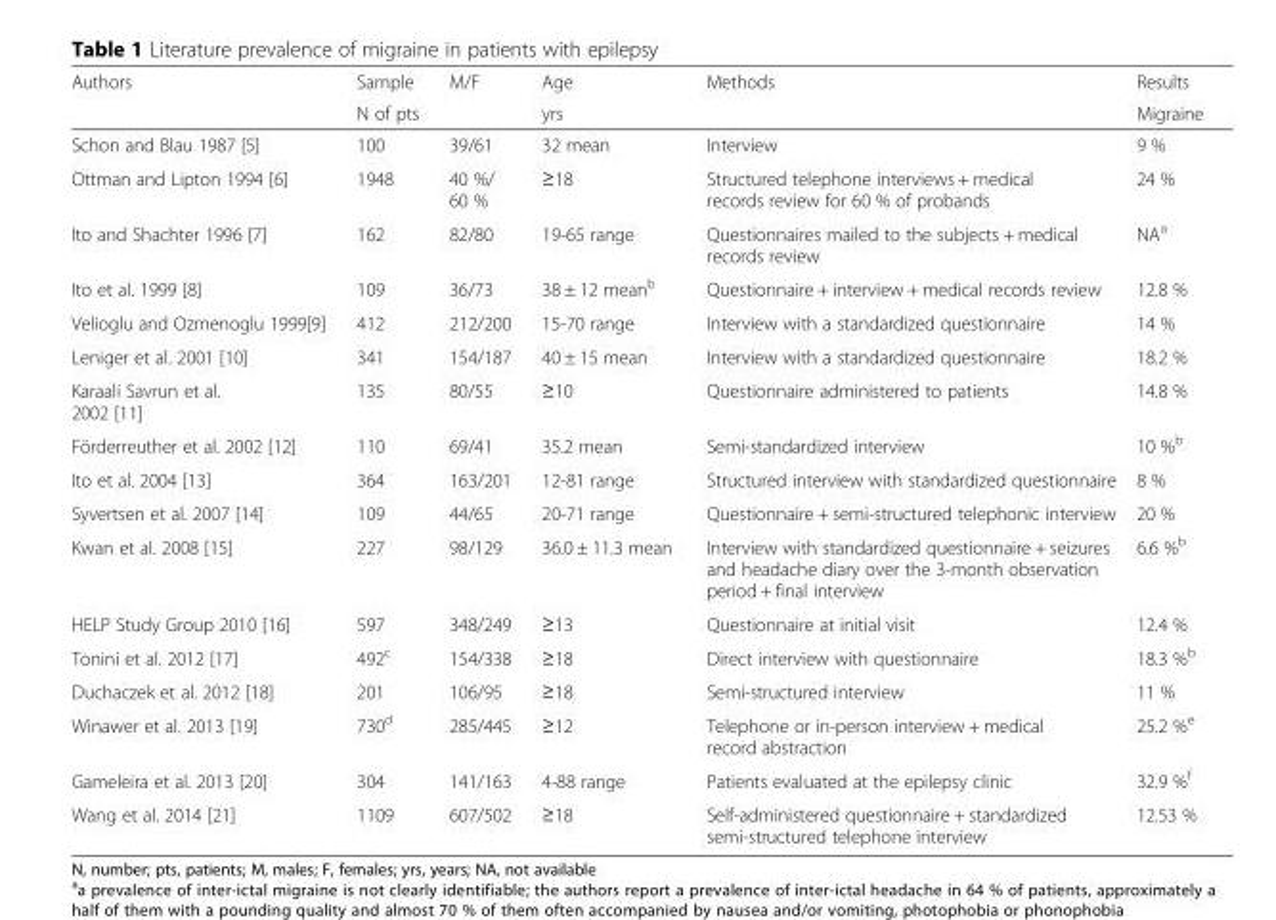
<table><thead><tr><td rowspan="2">Authors</td><td rowspan="2">Sample N of pts</td><td rowspan="2">M/F</td><td rowspan="2">Age yrs</td><td rowspan="2">Methods</td><td rowspan="2">Results Migraine</td></tr><tr></tr></thead><tbody><tr><td>Schon and Blau 1987 [5]</td><td>100</td><td>39/61</td><td>32 mean</td><td>Interview</td><td>9 %</td></tr><tr><td>Ottman and Lipton 1994 [6]</td><td>1948</td><td>40 %/ 60 %</td><td>≥18</td><td>Structured telephone interviews + medical records review for 60 % of probands</td><td>24 %</td></tr><tr><td>Ito and Shachter 1996 [7]</td><td>162</td><td>82/80</td><td>19-65 range</td><td>Questionnaires mailed to the subjects + medical records review</td><td>NA<sup>a</sup></td></tr><tr><td>Ito et al. 1999 [8]</td><td>109</td><td>36/73</td><td>38 ± 12 mean<sup>b</sup></td><td>Questionnaire + interview + medical records review</td><td>12.8 %</td></tr><tr><td>Velioglu and Ozmenoglu 1999[9]</td><td>412</td><td>212/200</td><td>15-70 range</td><td>Interview with a standardized questionnaire</td><td>14 %</td></tr><tr><td>Leniger et al. 2001 [10]</td><td>341</td><td>154/187</td><td>40 ± 15 mean</td><td>Interview with a standardized questionnaire</td><td>18.2 %</td></tr><tr><td>Karaali Savrun et al. 2002 [11]</td><td>135</td><td>80/55</td><td>≥10</td><td>Questionnaire administered to patients</td><td>14.8 %</td></tr><tr><td>Förderreuther et al. 2002 [12]</td><td>110</td><td>69/41</td><td>35.2 mean</td><td>Semi-standardized interview</td><td>10 %<sup>b</sup></td></tr><tr><td>Ito et al. 2004 [13]</td><td>364</td><td>163/201</td><td>12-81 range</td><td>Structured interview with standardized questionnaire</td><td>8 %</td></tr><tr><td>Syvertsen et al. 2007 [14]</td><td>109</td><td>44/65</td><td>20-71 range</td><td>Questionnaire + semi-structured telephonic interview</td><td>20 %</td></tr><tr><td>Kwan et al. 2008 [15]</td><td>227</td><td>98/129</td><td>36.0 ± 11.3 mean</td><td>Interview with standardized questionnaire + seizures and headache diary over the 3-month observation period + final interview</td><td>6.6 %<sup>b</sup></td></tr><tr><td>HELP Study Group 2010 [16]</td><td>597</td><td>348/249</td><td>≥13</td><td>Questionnaire at initial visit</td><td>12.4 %</td></tr><tr><td>Tonini et al. 2012 [17]</td><td>492<sup>c</sup></td><td>154/338</td><td>≥18</td><td>Direct interview with questionnaire</td><td>18.3 %<sup>b</sup></td></tr><tr><td>Duchaczek et al. 2012 [18]</td><td>201</td><td>106/95</td><td>≥18</td><td>Semi-structured interview</td><td>11 %</td></tr><tr><td>Winawer et al. 2013 [19]</td><td>730<sup>d</sup></td><td>285/445</td><td>≥12</td><td>Telephone or in-person interview + medical record abstraction</td><td>25.2 %<sup>e</sup></td></tr><tr><td>Gameleira et al. 2013 [20]</td><td>304</td><td>141/163</td><td>4-88 range</td><td>Patients evaluated at the epilepsy clinic</td><td>32.9 %<sup>f</sup></td></tr><tr><td>Wang et al. 2014 [21]</td><td>1109</td><td>607/502</td><td>≥18</td><td>Self-administered questionnaire + standardized semi-structured telephone interview</td><td>12.53 %</td></tr></tbody></table>